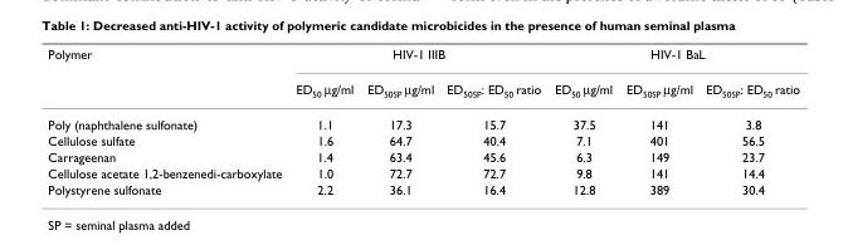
<table><thead><tr><td rowspan="2">Polymer</td><td colspan="3">HIV-1 IIIB</td><td colspan="3">HIV-1 BaL</td></tr><tr><td>ED<sub>50</sub> μg/ml</td><td>ED<sub>50SP</sub> μg/ml</td><td>ED<sub>50SP</sub>: ED<sub>50</sub> ratio</td><td>ED<sub>50</sub> μg/ml</td><td>ED<sub>50SP</sub> μg/ml</td><td>ED<sub>50SP</sub>: ED<sub>50</sub> ratio</td></tr></thead><tbody><tr><td>Poly (naphthalene sulfonate)</td><td>1.1</td><td>17.3</td><td>15.7</td><td>37.5</td><td>141</td><td>3.8</td></tr><tr><td>Cellulose sulfate</td><td>1.6</td><td>64.7</td><td>40.4</td><td>7.1</td><td>401</td><td>56.5</td></tr><tr><td>Carrageenan</td><td>1.4</td><td>63.4</td><td>45.6</td><td>6.3</td><td>149</td><td>23.7</td></tr><tr><td>Cellulose acetate 1,2-benzenedi-carboxylate</td><td>1.0</td><td>72.7</td><td>72.7</td><td>9.8</td><td>141</td><td>14.4</td></tr><tr><td>Polystyrene sulfonate</td><td>2.2</td><td>36.1</td><td>16.4</td><td>12.8</td><td>389</td><td>30.4</td></tr></tbody></table>